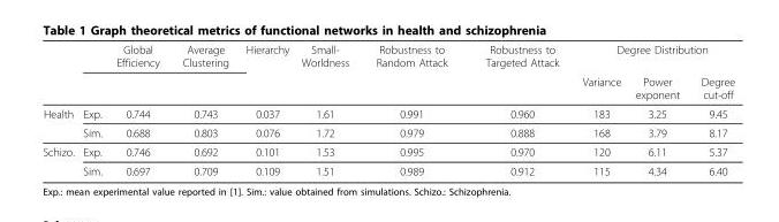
<table><thead><tr><td rowspan="2"></td><td rowspan="2"></td><td rowspan="2">Global Efficiency</td><td rowspan="2">Average Clustering</td><td rowspan="2">Hierarchy</td><td rowspan="2">Small- Worldness</td><td rowspan="2">Robustness to Random Attack</td><td rowspan="2">Robustness to Targeted Attack</td><td colspan="3">Degree Distribution</td></tr><tr><td>Variance</td><td>Power exponent</td><td>Degree cut-off</td></tr></thead><tbody><tr><td rowspan="2">Health</td><td>Exp.</td><td>0.744</td><td>0.743</td><td>0.037</td><td>1.61</td><td>0.991</td><td>0.960</td><td>183</td><td>3.25</td><td>9.45</td></tr><tr><td>Sim.</td><td>0.688</td><td>0.803</td><td>0.076</td><td>1.72</td><td>0.979</td><td>0.888</td><td>168</td><td>3.79</td><td>8.17</td></tr><tr><td rowspan="2">Schizo.</td><td>Exp.</td><td>0.746</td><td>0.692</td><td>0.101</td><td>1.53</td><td>0.995</td><td>0.970</td><td>120</td><td>6.11</td><td>5.37</td></tr><tr><td>Sim.</td><td>0.697</td><td>0.709</td><td>0.109</td><td>1.51</td><td>0.989</td><td>0.912</td><td>115</td><td>4.34</td><td>6.40</td></tr></tbody></table>